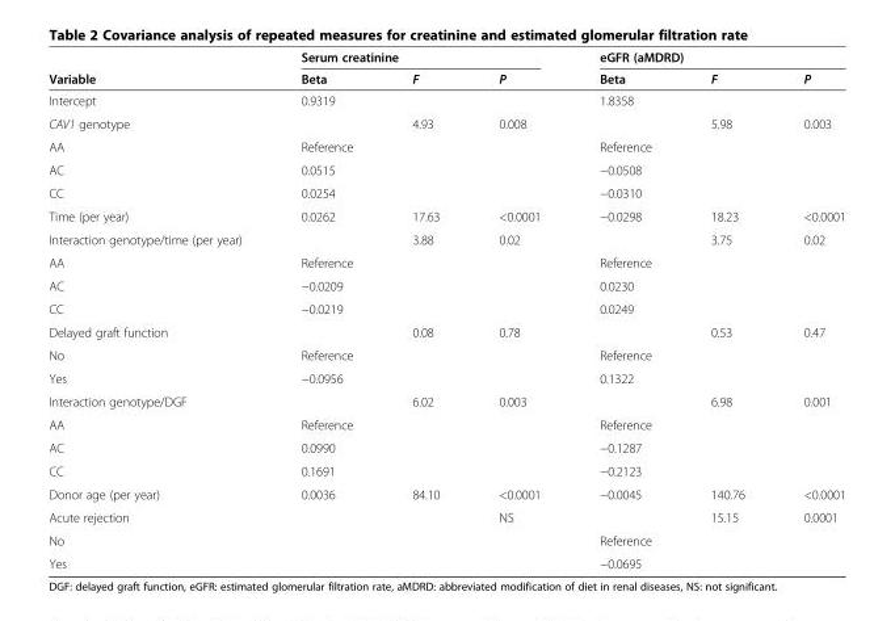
<table><thead><tr><td rowspan="2">Variable</td><td colspan="3">Serum creatinine</td><td colspan="3">eGFR (aMDRD)</td></tr><tr><td>Beta</td><td>F</td><td>P</td><td>Beta</td><td>F</td><td>P</td></tr></thead><tbody><tr><td>Intercept</td><td>0.9319</td><td></td><td></td><td>1.8358</td><td></td><td></td></tr><tr><td>CAV1 genotype</td><td></td><td>4.93</td><td>0.008</td><td></td><td>5.98</td><td>0.003</td></tr><tr><td>AA</td><td>Reference</td><td></td><td></td><td>Reference</td><td></td><td></td></tr><tr><td>AC</td><td>0.0515</td><td></td><td></td><td>−0.0508</td><td></td><td></td></tr><tr><td>CC</td><td>0.0254</td><td></td><td></td><td>−0.0310</td><td></td><td></td></tr><tr><td>Time (per year)</td><td>0.0262</td><td>17.63</td><td>&lt;0.0001</td><td>−0.0298</td><td>18.23</td><td>&lt;0.0001</td></tr><tr><td>Interaction genotype/time (per year)</td><td></td><td>3.88</td><td>0.02</td><td></td><td>3.75</td><td>0.02</td></tr><tr><td>AA</td><td>Reference</td><td></td><td></td><td>Reference</td><td></td><td></td></tr><tr><td>AC</td><td>−0.0209</td><td></td><td></td><td>0.0230</td><td></td><td></td></tr><tr><td>CC</td><td>−0.0219</td><td></td><td></td><td>0.0249</td><td></td><td></td></tr><tr><td>Delayed graft function</td><td></td><td>0.08</td><td>0.78</td><td></td><td>0.53</td><td>0.47</td></tr><tr><td>No</td><td>Reference</td><td></td><td></td><td>Reference</td><td></td><td></td></tr><tr><td>Yes</td><td>−0.0956</td><td></td><td></td><td>0.1322</td><td></td><td></td></tr><tr><td>Interaction genotype/DGF</td><td></td><td>6.02</td><td>0.003</td><td></td><td>6.98</td><td>0.001</td></tr><tr><td>AA</td><td>Reference</td><td></td><td></td><td>Reference</td><td></td><td></td></tr><tr><td>AC</td><td>0.0990</td><td></td><td></td><td>−0.1287</td><td></td><td></td></tr><tr><td>CC</td><td>0.1691</td><td></td><td></td><td>−0.2123</td><td></td><td></td></tr><tr><td>Donor age (per year)</td><td>0.0036</td><td>84.10</td><td>&lt;0.0001</td><td>−0.0045</td><td>140.76</td><td>&lt;0.0001</td></tr><tr><td>Acute rejection</td><td></td><td></td><td>NS</td><td></td><td>15.15</td><td>0.0001</td></tr><tr><td>No</td><td></td><td></td><td></td><td>Reference</td><td></td><td></td></tr><tr><td>Yes</td><td></td><td></td><td></td><td>−0.0695</td><td></td><td></td></tr></tbody></table>